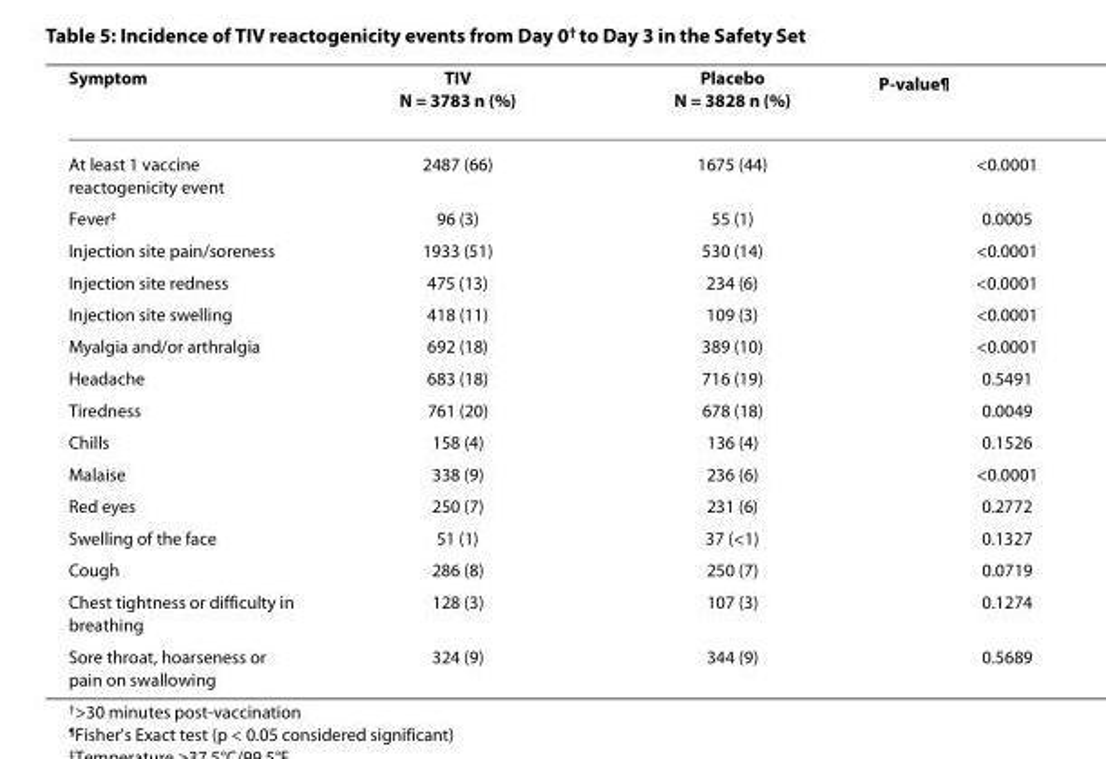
<table><thead><tr><td>Symptom</td><td>TIV N = 3783 n (%)</td><td>Placebo N = 3828 n (%)</td><td>P-value<sup>¶</sup></td></tr></thead><tbody><tr><td>At least 1 vaccine reactogenicity event</td><td>2487 (66)</td><td>1675 (44)</td><td>&lt;0.0001</td></tr><tr><td>Fever<sup>‡</sup></td><td>96 (3)</td><td>55 (1)</td><td>0.0005</td></tr><tr><td>Injection site pain/soreness</td><td>1933 (51)</td><td>530 (14)</td><td>&lt;0.0001</td></tr><tr><td>Injection site redness</td><td>475 (13)</td><td>234 (6)</td><td>&lt;0.0001</td></tr><tr><td>Injection site swelling</td><td>418 (11)</td><td>109 (3)</td><td>&lt;0.0001</td></tr><tr><td>Myalgia and/or arthralgia</td><td>692 (18)</td><td>389 (10)</td><td>&lt;0.0001</td></tr><tr><td>Headache</td><td>683 (18)</td><td>716 (19)</td><td>0.5491</td></tr><tr><td>Tiredness</td><td>761 (20)</td><td>678 (18)</td><td>0.0049</td></tr><tr><td>Chills</td><td>158 (4)</td><td>136 (4)</td><td>0.1526</td></tr><tr><td>Malaise</td><td>338 (9)</td><td>236 (6)</td><td>&lt;0.0001</td></tr><tr><td>Red eyes</td><td>250 (7)</td><td>231 (6)</td><td>0.2772</td></tr><tr><td>Swelling of the face</td><td>51 (1)</td><td>37 (&lt;1)</td><td>0.1327</td></tr><tr><td>Cough</td><td>286 (8)</td><td>250 (7)</td><td>0.0719</td></tr><tr><td>Chest tightness or difficulty in breathing</td><td>128 (3)</td><td>107 (3)</td><td>0.1274</td></tr><tr><td>Sore throat, hoarseness or pain on swallowing</td><td>324 (9)</td><td>344 (9)</td><td>0.5689</td></tr></tbody></table>